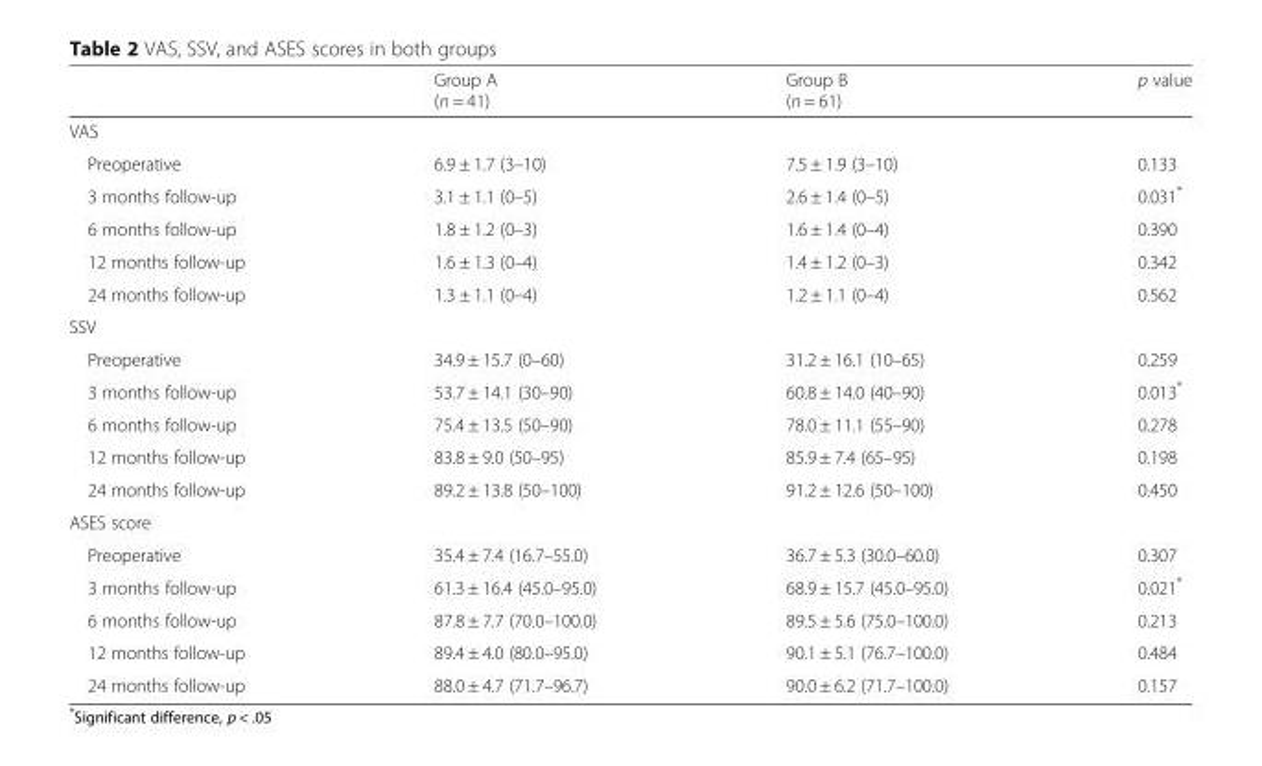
<table><thead><tr><td></td><td>Group A (n = 41)</td><td>Group B (n = 61)</td><td>p value</td></tr></thead><tbody><tr><td colspan="4">VAS</td></tr><tr><td>Preoperative</td><td>6.9 ± 1.7 (3–10)</td><td>7.5 ± 1.9 (3–10)</td><td>0.133</td></tr><tr><td>3 months follow-up</td><td>3.1 ± 1.1 (0–5)</td><td>2.6 ± 1.4 (0–5)</td><td>0.031*</td></tr><tr><td>6 months follow-up</td><td>1.8 ± 1.2 (0–3)</td><td>1.6 ± 1.4 (0–4)</td><td>0.390</td></tr><tr><td>12 months follow-up</td><td>1.6 ± 1.3 (0–4)</td><td>1.4 ± 1.2 (0–3)</td><td>0.342</td></tr><tr><td>24 months follow-up</td><td>1.3 ± 1.1 (0–4)</td><td>1.2 ± 1.1 (0–4)</td><td>0.562</td></tr><tr><td colspan="4">SSV</td></tr><tr><td>Preoperative</td><td>34.9 ± 15.7 (0–60)</td><td>31.2 ± 16.1 (10–65)</td><td>0.259</td></tr><tr><td>3 months follow-up</td><td>53.7 ± 14.1 (30–90)</td><td>60.8 ± 14.0 (40–90)</td><td>0.013*</td></tr><tr><td>6 months follow-up</td><td>75.4 ± 13.5 (50–90)</td><td>78.0 ± 11.1 (55–90)</td><td>0.278</td></tr><tr><td>12 months follow-up</td><td>83.8 ± 9.0 (50–95)</td><td>85.9 ± 7.4 (65–95)</td><td>0.198</td></tr><tr><td>24 months follow-up</td><td>89.2 ± 13.8 (50–100)</td><td>91.2 ± 12.6 (50–100)</td><td>0.450</td></tr><tr><td colspan="4">ASES score</td></tr><tr><td>Preoperative</td><td>35.4 ± 7.4 (16.7–55.0)</td><td>36.7 ± 5.3 (30.0–60.0)</td><td>0.307</td></tr><tr><td>3 months follow-up</td><td>61.3 ± 16.4 (45.0–95.0)</td><td>68.9 ± 15.7 (45.0–95.0)</td><td>0.021*</td></tr><tr><td>6 months follow-up</td><td>87.8 ± 7.7 (70.0–100.0)</td><td>89.5 ± 5.6 (75.0–100.0)</td><td>0.213</td></tr><tr><td>12 months follow-up</td><td>89.4 ± 4.0 (80.0–95.0)</td><td>90.1 ± 5.1 (76.7–100.0)</td><td>0.484</td></tr><tr><td>24 months follow-up</td><td>88.0 ± 4.7 (71.7–96.7)</td><td>90.0 ± 6.2 (71.7–100.0)</td><td>0.157</td></tr></tbody></table>